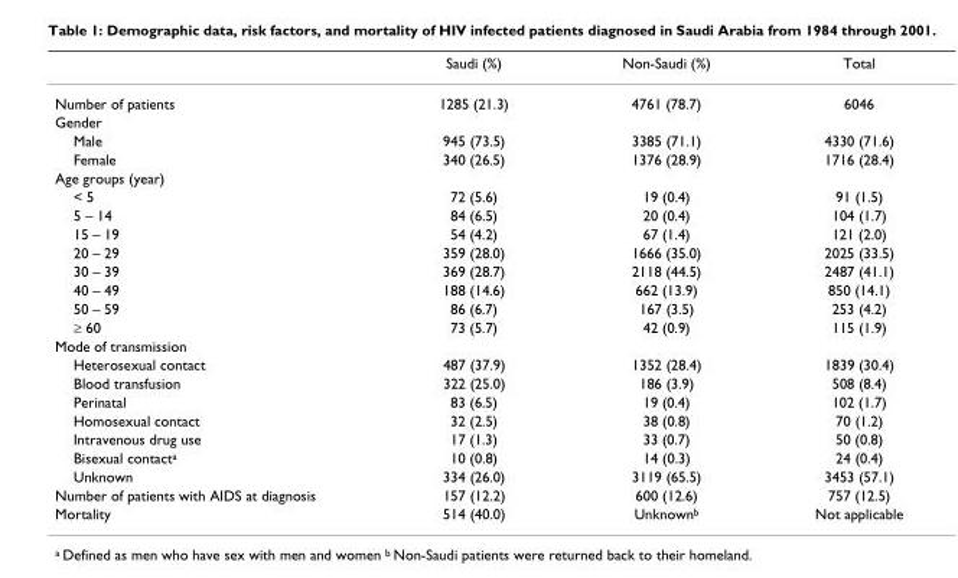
<table><thead><tr><td></td><td>Saudi (%)</td><td>Non-Saudi (%)</td><td>Total</td></tr></thead><tbody><tr><td>Number of patients</td><td>1285 (21.3)</td><td>4761 (78.7)</td><td>6046</td></tr><tr><td colspan="4">Gender</td></tr><tr><td>Male</td><td>945 (73.5)</td><td>3385 (71.1)</td><td>4330 (71.6)</td></tr><tr><td>Female</td><td>340 (26.5)</td><td>1376 (28.9)</td><td>1716 (28.4)</td></tr><tr><td colspan="4">Age groups (year)</td></tr><tr><td>&lt; 5</td><td>72 (5.6)</td><td>19 (0.4)</td><td>91 (1.5)</td></tr><tr><td>5 – 14</td><td>84 (6.5)</td><td>20 (0.4)</td><td>104 (1.7)</td></tr><tr><td>15 – 19</td><td>54 (4.2)</td><td>67 (1.4)</td><td>121 (2.0)</td></tr><tr><td>20 – 29</td><td>359 (28.0)</td><td>1666 (35.0)</td><td>2025 (33.5)</td></tr><tr><td>30 – 39</td><td>369 (28.7)</td><td>2118 (44.5)</td><td>2487 (41.1)</td></tr><tr><td>40 – 49</td><td>188 (14.6)</td><td>662 (13.9)</td><td>850 (14.1)</td></tr><tr><td>50 – 59</td><td>86 (6.7)</td><td>167 (3.5)</td><td>253 (4.2)</td></tr><tr><td>≥ 60</td><td>73 (5.7)</td><td>42 (0.9)</td><td>115 (1.9)</td></tr><tr><td colspan="4">Mode of transmission</td></tr><tr><td>Heterosexual contact</td><td>487 (37.9)</td><td>1352 (28.4)</td><td>1839 (30.4)</td></tr><tr><td>Blood transfusion</td><td>322 (25.0)</td><td>186 (3.9)</td><td>508 (8.4)</td></tr><tr><td>Perinatal</td><td>83 (6.5)</td><td>19 (0.4)</td><td>102 (1.7)</td></tr><tr><td>Homosexual contact</td><td>32 (2.5)</td><td>38 (0.8)</td><td>70 (1.2)</td></tr><tr><td>Intravenous drug use</td><td>17 (1.3)</td><td>33 (0.7)</td><td>50 (0.8)</td></tr><tr><td>Bisexual contacta</td><td>10 (0.8)</td><td>14 (0.3)</td><td>24 (0.4)</td></tr><tr><td>Unknown</td><td>334 (26.0)</td><td>3119 (65.5)</td><td>3453 (57.1)</td></tr><tr><td>Number of patients with AIDS at diagnosis</td><td>157 (12.2)</td><td>600 (12.6)</td><td>757 (12.5)</td></tr><tr><td>Mortality</td><td>514 (40.0)</td><td>Unknownb</td><td>Not applicable</td></tr></tbody></table>